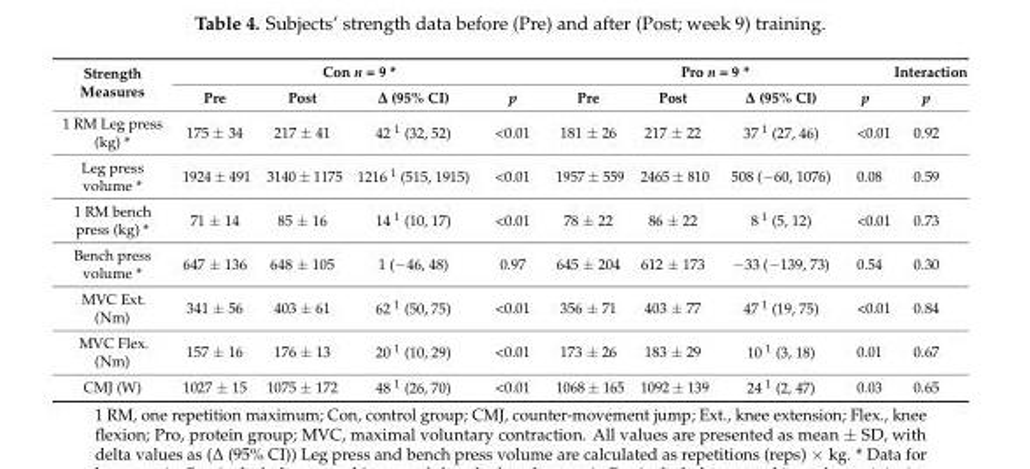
<table><thead><tr><td rowspan="2">Strength Measures</td><td colspan="4">Con n = 9 *</td><td colspan="4">Pro n = 9 *</td><td rowspan="2">Interaction p</td></tr><tr><td>Pre</td><td>Post</td><td>∆ (95% CI)</td><td>p</td><td>Pre</td><td>Post</td><td>∆ (95% CI)</td><td>p</td></tr></thead><tbody><tr><td>1 RM Leg press (kg) *</td><td>175 ± 34</td><td>217 ± 41</td><td>42 <sup>1</sup> (32, 52)</td><td>&lt;0.01</td><td>181 ± 26</td><td>217 ± 22</td><td>37 <sup>1</sup> (27, 46)</td><td>&lt;0.01</td><td>0.92</td></tr><tr><td>Leg press volume *</td><td>1924 ± 491</td><td>3140 ± 1175</td><td>1216 <sup>1</sup> (515, 1915)</td><td>&lt;0.01</td><td>1957 ± 559</td><td>2465 ± 810</td><td>508 (−60, 1076)</td><td>0.08</td><td>0.59</td></tr><tr><td>1 RM bench press (kg) *</td><td>71 ± 14</td><td>85 ± 16</td><td>14 <sup>1</sup> (10, 17)</td><td>&lt;0.01</td><td>78 ± 22</td><td>86 ± 22</td><td>8 <sup>1</sup> (5, 12)</td><td>&lt;0.01</td><td>0.73</td></tr><tr><td>Bench press volume *</td><td>647 ± 136</td><td>648 ± 105</td><td>1 (−46, 48)</td><td>0.97</td><td>645 ± 204</td><td>612 ± 173</td><td>−33 (−139, 73)</td><td>0.54</td><td>0.30</td></tr><tr><td>MVC Ext. (Nm)</td><td>341 ± 56</td><td>403 ± 61</td><td>62 <sup>1</sup> (50, 75)</td><td>&lt;0.01</td><td>356 ± 71</td><td>403 ± 77</td><td>47 <sup>1</sup> (19, 75)</td><td>&lt;0.01</td><td>0.84</td></tr><tr><td>MVC Flex. (Nm)</td><td>157 ± 16</td><td>176 ± 13</td><td>20 <sup>1</sup> (10, 29)</td><td>&lt;0.01</td><td>173 ± 26</td><td>183 ± 29</td><td>10 <sup>1</sup> (3, 18)</td><td>0.01</td><td>0.67</td></tr><tr><td>CMJ (W)</td><td>1027 ± 15</td><td>1075 ± 172</td><td>48 <sup>1</sup> (26, 70)</td><td>&lt;0.01</td><td>1068 ± 165</td><td>1092 ± 139</td><td>24 <sup>1</sup> (2, 47)</td><td>0.03</td><td>0.65</td></tr></tbody></table>